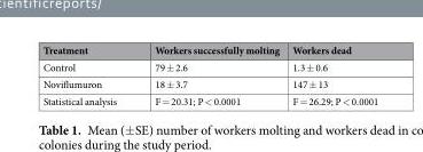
<table><thead><tr><td>Treatment</td><td>Workers successfully molting</td><td>Workers dead</td></tr></thead><tbody><tr><td>Control</td><td>79 ± 2.6</td><td>1.3 ± 0.6</td></tr><tr><td>Noviflumuron</td><td>18 ± 3.7</td><td>147 ± 13</td></tr><tr><td>Statistical analysis</td><td>F = 20.31; P &lt; 0.0001</td><td>F = 26.29; P &lt; 0.0001</td></tr></tbody></table>